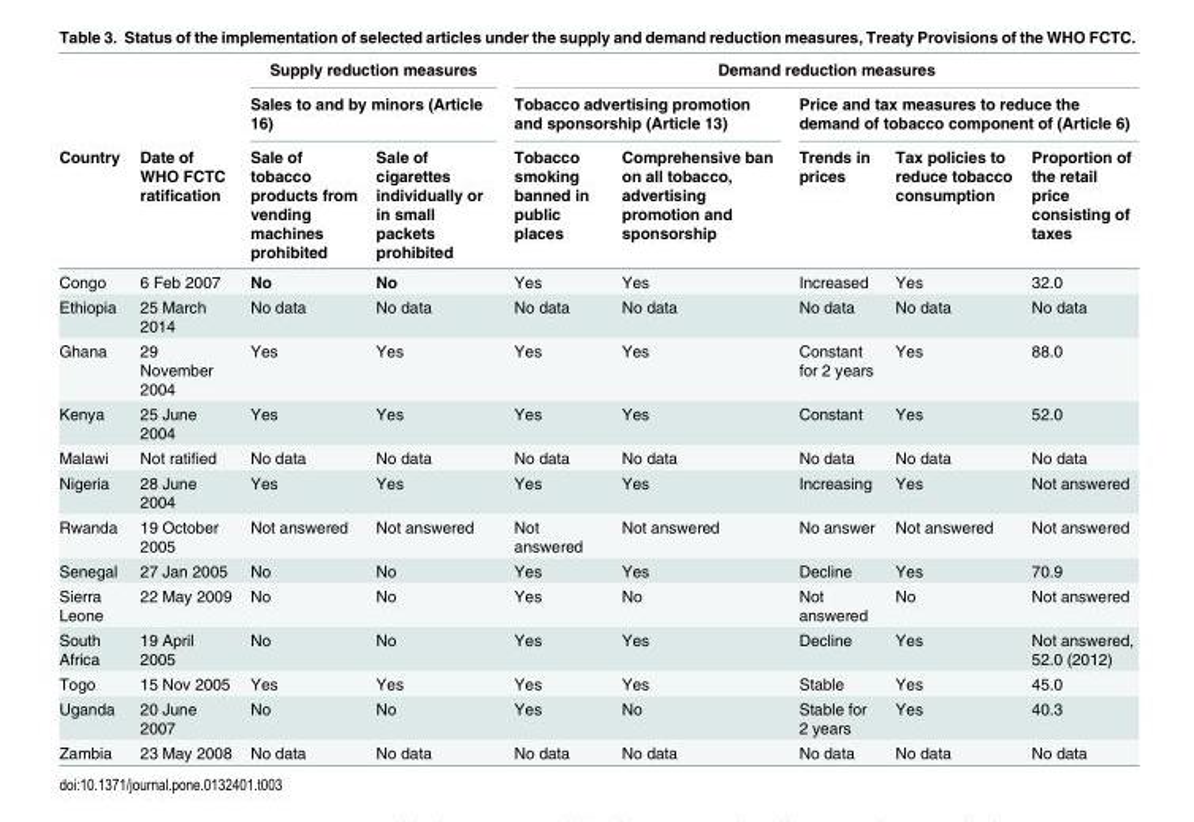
<table><thead><tr><td rowspan="3">Country</td><td rowspan="3">Date of WHO FCTC ratification</td><td rowspan="2" colspan="2">Supply reduction measures Sales to and by minors (Article 16)</td><td colspan="5">Demand reduction measures</td></tr><tr><td colspan="2">Tobacco advertising promotion and sponsorship (Article 13)</td><td colspan="3">Price and tax measures to reduce the demand of tobacco component of (Article 6)</td></tr><tr><td>Sale of tobacco products from vending machines prohibited</td><td>Sale of cigarettes individually or in small packets prohibited</td><td>Tobacco smoking banned in public places</td><td>Comprehensive ban on all tobacco, advertising promotion and sponsorship</td><td>Trends in prices</td><td>Tax policies to reduce tobacco consumption</td><td>Proportion of the retail price consisting of taxes</td></tr></thead><tbody><tr><td>Congo</td><td>6 Feb 2007</td><td>No</td><td>No</td><td>Yes</td><td>Yes</td><td>Increased</td><td>Yes</td><td>32.0</td></tr><tr><td>Ethiopia</td><td>25 March 2014</td><td>No data</td><td>No data</td><td>No data</td><td>No data</td><td>No data</td><td>No data</td><td>No data</td></tr><tr><td>Ghana</td><td>29 November 2004</td><td>Yes</td><td>Yes</td><td>Yes</td><td>Yes</td><td>Constant for 2 years</td><td>Yes</td><td>88.0</td></tr><tr><td>Kenya</td><td>25 June 2004</td><td>Yes</td><td>Yes</td><td>Yes</td><td>Yes</td><td>Constant</td><td>Yes</td><td>52.0</td></tr><tr><td>Malawi</td><td>Not ratified</td><td>No data</td><td>No data</td><td>No data</td><td>No data</td><td>No data</td><td>No data</td><td>No data</td></tr><tr><td>Nigeria</td><td>28 June 2004</td><td>Yes</td><td>Yes</td><td>Yes</td><td>Yes</td><td>Increasing</td><td>Yes</td><td>Not answered</td></tr><tr><td>Rwanda</td><td>19 October 2005</td><td>Not answered</td><td>Not answered</td><td>Not answered</td><td>Not answered</td><td>No answer</td><td>Not answered</td><td>Not answered</td></tr><tr><td>Senegal</td><td>27 Jan 2005</td><td>No</td><td>No</td><td>Yes</td><td>Yes</td><td>Decline</td><td>Yes</td><td>70.9</td></tr><tr><td>Sierra Leone</td><td>22 May 2009</td><td>No</td><td>No</td><td>Yes</td><td>No</td><td>Not answered</td><td>No</td><td>Not answered</td></tr><tr><td>South Africa</td><td>19 April 2005</td><td>No</td><td>No</td><td>Yes</td><td>Yes</td><td>Decline</td><td>Yes</td><td>Not answered, 52.0 (2012)</td></tr><tr><td>Togo</td><td>15 Nov 2005</td><td>Yes</td><td>Yes</td><td>Yes</td><td>Yes</td><td>Stable</td><td>Yes</td><td>45.0</td></tr><tr><td>Uganda</td><td>20 June 2007</td><td>No</td><td>No</td><td>Yes</td><td>No</td><td>Stable for 2 years</td><td>Yes</td><td>40.3</td></tr><tr><td>Zambia</td><td>23 May 2008</td><td>No data</td><td>No data</td><td>No data</td><td>No data</td><td>No data</td><td>No data</td><td>No data</td></tr></tbody></table>